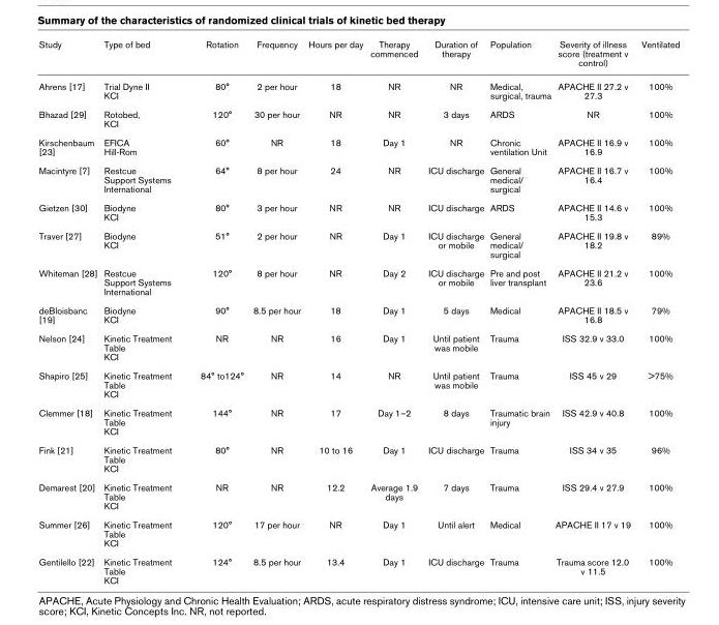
<table><thead><tr><td>Study</td><td>Type of bed</td><td>Rotation</td><td>Frequency</td><td>Hours per day</td><td>Therapy commenced</td><td>Duration of therapy</td><td>Population</td><td>Severity of illness score (treatment v control)</td><td>Ventilated</td></tr></thead><tbody><tr><td>Ahrens [17]</td><td>Trial Dyne II KCI</td><td>80°</td><td>2 per hour</td><td>18</td><td>NR</td><td>NR</td><td>Medical, surgical, trauma</td><td>APACHE II 27.2 v 27.3</td><td>100%</td></tr><tr><td>Bhazad [29]</td><td>Rotobed, KCI</td><td>120°</td><td>30 per hour</td><td>NR</td><td>NR</td><td>3 days</td><td>ARDS</td><td>NR</td><td>100%</td></tr><tr><td>Kirschenbaum [23]</td><td>EFICA Hill-Rom</td><td>60°</td><td>NR</td><td>18</td><td>Day 1</td><td>NR</td><td>Chronic ventilation Unit</td><td>APACHE II 16.9 v 16.9</td><td>100%</td></tr><tr><td>Macintyre [7]</td><td>Restcue Support Systems International</td><td>64°</td><td>8 per hour</td><td>24</td><td>NR</td><td>ICU discharge</td><td>General medical/ surgical</td><td>APACHE II 16.7 v 16.4</td><td>100%</td></tr><tr><td>Gietzen [30]</td><td>Biodyne KCI</td><td>80°</td><td>3 per hour</td><td>NR</td><td>NR</td><td>ICU discharge</td><td>ARDS</td><td>APACHE II 14.6 v 15.3</td><td>100%</td></tr><tr><td>Traver [27]</td><td>Biodyne KCI</td><td>51°</td><td>2 per hour</td><td>NR</td><td>Day 1</td><td>ICU discharge or mobile</td><td>General medical/ surgical</td><td>APACHE II 19.8 v 18.2</td><td>89%</td></tr><tr><td>Whiteman [28]</td><td>Restcue Support Systems International</td><td>120°</td><td>8 per hour</td><td>NR</td><td>Day 2</td><td>ICU discharge or mobile</td><td>Pre and post liver transplant</td><td>APACHE II 21.2 v 23.6</td><td>100%</td></tr><tr><td>deBloisbanc [19]</td><td>Biodyne KCI</td><td>90°</td><td>8.5 per hour</td><td>18</td><td>Day 1</td><td>5 days</td><td>Medical</td><td>APACHE II 18.5 v 16.8</td><td>79%</td></tr><tr><td>Nelson [24]</td><td>Kinetic Treatment Table KCI</td><td>NR</td><td>NR</td><td>16</td><td>Day 1</td><td>Until patient was mobile</td><td>Trauma</td><td>ISS 32.9 v 33.0</td><td>100%</td></tr><tr><td>Shapiro [25]</td><td>Kinetic Treatment Table KCI</td><td>84° to124°</td><td>NR</td><td>14</td><td>NR</td><td>Until patient was mobile</td><td>Trauma</td><td>ISS 45 v 29</td><td>&gt;75%</td></tr><tr><td>Clemmer [18]</td><td>Kinetic Treatment Table KCI</td><td>144°</td><td>NR</td><td>17</td><td>Day 1–2</td><td>8 days</td><td>Traumatic brain injury</td><td>ISS 42.9 v 40.8</td><td>100%</td></tr><tr><td>Fink [21]</td><td>Kinetic Treatment Table KCI</td><td>80°</td><td>NR</td><td>10 to 16</td><td>Day 1</td><td>ICU discharge</td><td>Trauma</td><td>ISS 34 v 35</td><td>96%</td></tr><tr><td>Demarest [20]</td><td>Kinetic Treatment Table KCI</td><td>NR</td><td>NR</td><td>12.2</td><td>Average 1.9 days</td><td>7 days</td><td>Trauma</td><td>ISS 29.4 v 27.9</td><td>100%</td></tr><tr><td>Summer [26]</td><td>Kinetic Treatment Table KCI</td><td>120°</td><td>17 per hour</td><td>NR</td><td>Day 1</td><td>Until alert</td><td>Medical</td><td>APACHE II 17 v 19</td><td>100%</td></tr><tr><td>Gentilello [22]</td><td>Kinetic Treatment Table KCI</td><td>124°</td><td>8.5 per hour</td><td>13.4</td><td>Day 1</td><td>ICU discharge</td><td>Trauma</td><td>Trauma score 12.0 v 11.5</td><td>100%</td></tr></tbody></table>